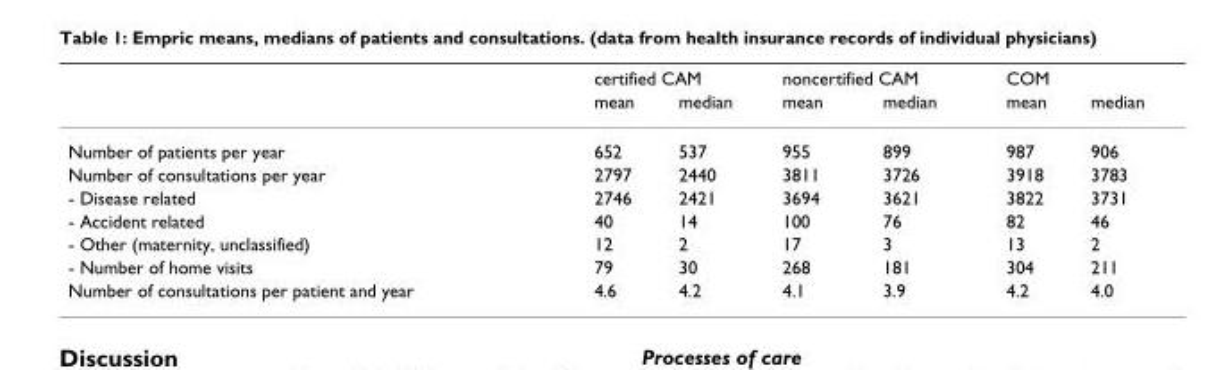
<table><thead><tr><td rowspan="2"></td><td colspan="2">certified CAM</td><td colspan="2">noncertified CAM</td><td colspan="2">COM</td></tr><tr><td>mean</td><td>median</td><td>mean</td><td>median</td><td>mean</td><td>median</td></tr></thead><tbody><tr><td>Number of patients per year</td><td>652</td><td>537</td><td>955</td><td>899</td><td>987</td><td>906</td></tr><tr><td>Number of consultations per year</td><td>2797</td><td>2440</td><td>3811</td><td>3726</td><td>3918</td><td>3783</td></tr><tr><td>- Disease related</td><td>2746</td><td>2421</td><td>3694</td><td>3621</td><td>3822</td><td>3731</td></tr><tr><td>- Accident related</td><td>40</td><td>14</td><td>100</td><td>76</td><td>82</td><td>46</td></tr><tr><td>- Other (maternity, unclassified)</td><td>12</td><td>2</td><td>17</td><td>3</td><td>13</td><td>2</td></tr><tr><td>- Number of home visits</td><td>79</td><td>30</td><td>268</td><td>181</td><td>304</td><td>211</td></tr><tr><td>Number of consultations per patient and year</td><td>4.6</td><td>4.2</td><td>4.1</td><td>3.9</td><td>4.2</td><td>4.0</td></tr></tbody></table>